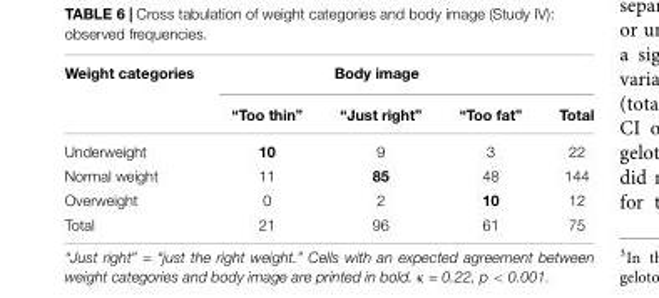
<table><thead><tr><td rowspan="2">Weight categories</td><td colspan="4">Body image</td></tr><tr><td>“Too thin”</td><td>“Just right”</td><td>“Too fat”</td><td>Total</td></tr></thead><tbody><tr><td>Underweight</td><td>10</td><td>9</td><td>3</td><td>22</td></tr><tr><td>Normal weight</td><td>11</td><td>85</td><td>48</td><td>144</td></tr><tr><td>Overweight</td><td>0</td><td>2</td><td>10</td><td>12</td></tr><tr><td>Total</td><td>21</td><td>96</td><td>61</td><td>75</td></tr></tbody></table>